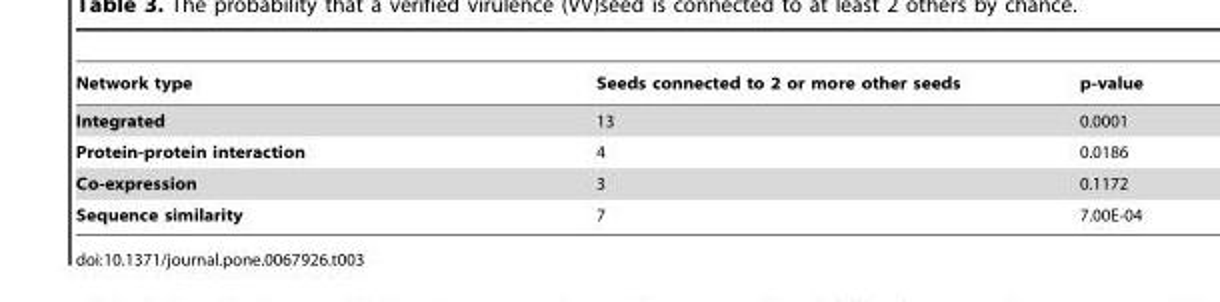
<table><thead><tr><td>Network type</td><td>Seeds connected to 2 or more other seeds</td><td>p-value</td></tr></thead><tbody><tr><td>Integrated</td><td>13</td><td>0.0001</td></tr><tr><td>Protein-protein interaction</td><td>4</td><td>0.0186</td></tr><tr><td>Co-expression</td><td>3</td><td>0.1172</td></tr><tr><td>Sequence similarity</td><td>7</td><td>7.00E-04</td></tr></tbody></table>